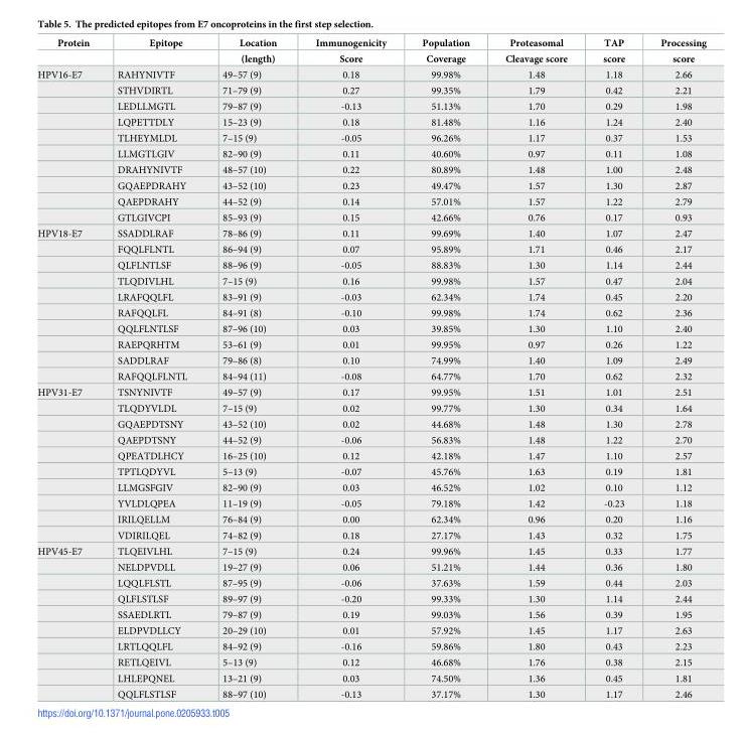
<table><thead><tr><td rowspan="2">Protein</td><td rowspan="2">Epitope</td><td rowspan="2">Location (length)</td><td rowspan="2">Immunogenicity Score</td><td rowspan="2">Population Coverage</td><td rowspan="2">Proteasomal Cleavage score</td><td rowspan="2">TAP score</td><td rowspan="2">Processing score</td></tr><tr></tr></thead><tbody><tr><td rowspan="10">HPV16-E7</td><td>RAHYNIVTF</td><td>49–57 (9)</td><td>0.18</td><td>99.98%</td><td>1.48</td><td>1.18</td><td>2.66</td></tr><tr><td>STHVDIRTL</td><td>71–79 (9)</td><td>0.27</td><td>99.35%</td><td>1.79</td><td>0.42</td><td>2.21</td></tr><tr><td>LEDLLMGTL</td><td>79–87 (9)</td><td>-0.13</td><td>51.13%</td><td>1.70</td><td>0.29</td><td>1.98</td></tr><tr><td>LQPETTDLY</td><td>15–23 (9)</td><td>0.18</td><td>81.48%</td><td>1.16</td><td>1.24</td><td>2.40</td></tr><tr><td>TLHEYMLDL</td><td>7–15 (9)</td><td>-0.05</td><td>96.26%</td><td>1.17</td><td>0.37</td><td>1.53</td></tr><tr><td>LLMGTLGIV</td><td>82–90 (9)</td><td>0.11</td><td>40.60%</td><td>0.97</td><td>0.11</td><td>1.08</td></tr><tr><td>DRAHYNIVTF</td><td>48–57 (10)</td><td>0.22</td><td>80.89%</td><td>1.48</td><td>1.00</td><td>2.48</td></tr><tr><td>GQAEPDRAHY</td><td>43–52 (10)</td><td>0.23</td><td>49.47%</td><td>1.57</td><td>1.30</td><td>2.87</td></tr><tr><td>QAEPDRAHY</td><td>44–52 (9)</td><td>0.14</td><td>57.01%</td><td>1.57</td><td>1.22</td><td>2.79</td></tr><tr><td>GTLGIVCPI</td><td>85–93 (9)</td><td>0.15</td><td>42.66%</td><td>0.76</td><td>0.17</td><td>0.93</td></tr><tr><td rowspan="10">HPV18-E7</td><td>SSADDLRAF</td><td>78–86 (9)</td><td>0.11</td><td>99.69%</td><td>1.40</td><td>1.07</td><td>2.47</td></tr><tr><td>FQQLFLNTL</td><td>86–94 (9)</td><td>0.07</td><td>95.89%</td><td>1.71</td><td>0.46</td><td>2.17</td></tr><tr><td>QLFLNTLSF</td><td>88–96 (9)</td><td>-0.05</td><td>88.83%</td><td>1.30</td><td>1.14</td><td>2.44</td></tr><tr><td>TLQDIVLHL</td><td>7–15 (9)</td><td>0.16</td><td>99.98%</td><td>1.57</td><td>0.47</td><td>2.04</td></tr><tr><td>LRAFQQLFL</td><td>83–91 (9)</td><td>-0.03</td><td>62.34%</td><td>1.74</td><td>0.45</td><td>2.20</td></tr><tr><td>RAFQQLFL</td><td>84–91 (8)</td><td>-0.10</td><td>99.98%</td><td>1.74</td><td>0.62</td><td>2.36</td></tr><tr><td>QQLFLNTLSF</td><td>87–96 (10)</td><td>0.03</td><td>39.85%</td><td>1.30</td><td>1.10</td><td>2.40</td></tr><tr><td>RAEPQRHTM</td><td>53–61 (9)</td><td>0.01</td><td>99.95%</td><td>0.97</td><td>0.26</td><td>1.22</td></tr><tr><td>SADDLRAF</td><td>79–86 (8)</td><td>0.10</td><td>74.99%</td><td>1.40</td><td>1.09</td><td>2.49</td></tr><tr><td>RAFQQLFLNTL</td><td>84–94 (11)</td><td>-0.08</td><td>64.77%</td><td>1.70</td><td>0.62</td><td>2.32</td></tr><tr><td rowspan="10">HPV31-E7</td><td>TSNYNIVTF</td><td>49–57 (9)</td><td>0.17</td><td>99.95%</td><td>1.51</td><td>1.01</td><td>2.51</td></tr><tr><td>TLQDYVLDL</td><td>7–15 (9)</td><td>0.02</td><td>99.77%</td><td>1.30</td><td>0.34</td><td>1.64</td></tr><tr><td>GQAEPDTSNY</td><td>43–52 (10)</td><td>0.02</td><td>44.68%</td><td>1.48</td><td>1.30</td><td>2.78</td></tr><tr><td>QAEPDTSNY</td><td>44–52 (9)</td><td>-0.06</td><td>56.83%</td><td>1.48</td><td>1.22</td><td>2.70</td></tr><tr><td>QPEATDLHCY</td><td>16–25 (10)</td><td>0.12</td><td>42.18%</td><td>1.47</td><td>1.10</td><td>2.57</td></tr><tr><td>TPTLQDYVL</td><td>5–13 (9)</td><td>-0.07</td><td>45.76%</td><td>1.63</td><td>0.19</td><td>1.81</td></tr><tr><td>LLMGSFGIV</td><td>82–90 (9)</td><td>0.03</td><td>46.52%</td><td>1.02</td><td>0.10</td><td>1.12</td></tr><tr><td>YVLDLQPEA</td><td>11–19 (9)</td><td>-0.05</td><td>79.18%</td><td>1.42</td><td>-0.23</td><td>1.18</td></tr><tr><td>IRILQELLM</td><td>76–84 (9)</td><td>0.00</td><td>62.34%</td><td>0.96</td><td>0.20</td><td>1.16</td></tr><tr><td>VDIRILQEL</td><td>74–82 (9)</td><td>0.18</td><td>27.17%</td><td>1.43</td><td>0.32</td><td>1.75</td></tr><tr><td rowspan="10">HPV45-E7</td><td>TLQEIVLHL</td><td>7–15 (9)</td><td>0.24</td><td>99.96%</td><td>1.45</td><td>0.33</td><td>1.77</td></tr><tr><td>NELDPVDLL</td><td>19–27 (9)</td><td>0.06</td><td>51.21%</td><td>1.44</td><td>0.36</td><td>1.80</td></tr><tr><td>LQQLFLSTL</td><td>87–95 (9)</td><td>-0.06</td><td>37.63%</td><td>1.59</td><td>0.44</td><td>2.03</td></tr><tr><td>QLFLSTLSF</td><td>89–97 (9)</td><td>-0.20</td><td>99.33%</td><td>1.30</td><td>1.14</td><td>2.44</td></tr><tr><td>SSAEDLRTL</td><td>79–87 (9)</td><td>0.19</td><td>99.03%</td><td>1.56</td><td>0.39</td><td>1.95</td></tr><tr><td>ELDPVDLLCY</td><td>20–29 (10)</td><td>0.01</td><td>57.92%</td><td>1.45</td><td>1.17</td><td>2.63</td></tr><tr><td>LRTLQQLFL</td><td>84–92 (9)</td><td>-0.16</td><td>59.86%</td><td>1.80</td><td>0.43</td><td>2.23</td></tr><tr><td>RETLQEIVL</td><td>5–13 (9)</td><td>0.12</td><td>46.68%</td><td>1.76</td><td>0.38</td><td>2.15</td></tr><tr><td>LHLEPQNEL</td><td>13–21 (9)</td><td>0.03</td><td>74.50%</td><td>1.36</td><td>0.45</td><td>1.81</td></tr><tr><td>QQLFLSTLSF</td><td>88–97 (10)</td><td>-0.13</td><td>37.17%</td><td>1.30</td><td>1.17</td><td>2.46</td></tr></tbody></table>